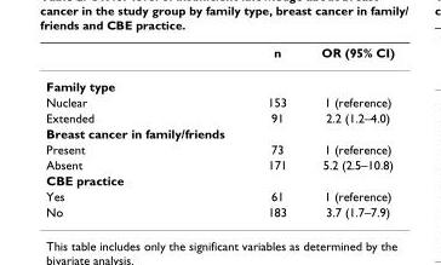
<table><thead><tr><td></td><td>n</td><td>OR (95% CI)</td></tr></thead><tbody><tr><td colspan="3">Family type</td></tr><tr><td>Nuclear</td><td>153</td><td>1 (reference)</td></tr><tr><td>Extended</td><td>91</td><td>2.2 (1.2–4.0)</td></tr><tr><td colspan="3">Breast cancer in family/friends</td></tr><tr><td>Present</td><td>73</td><td>1 (reference)</td></tr><tr><td>Absent</td><td>171</td><td>5.2 (2.5–10.8)</td></tr><tr><td colspan="3">CBE practice</td></tr><tr><td>Yes</td><td>61</td><td>1 (reference)</td></tr><tr><td>No</td><td>183</td><td>3.7 (1.7–7.9)</td></tr></tbody></table>